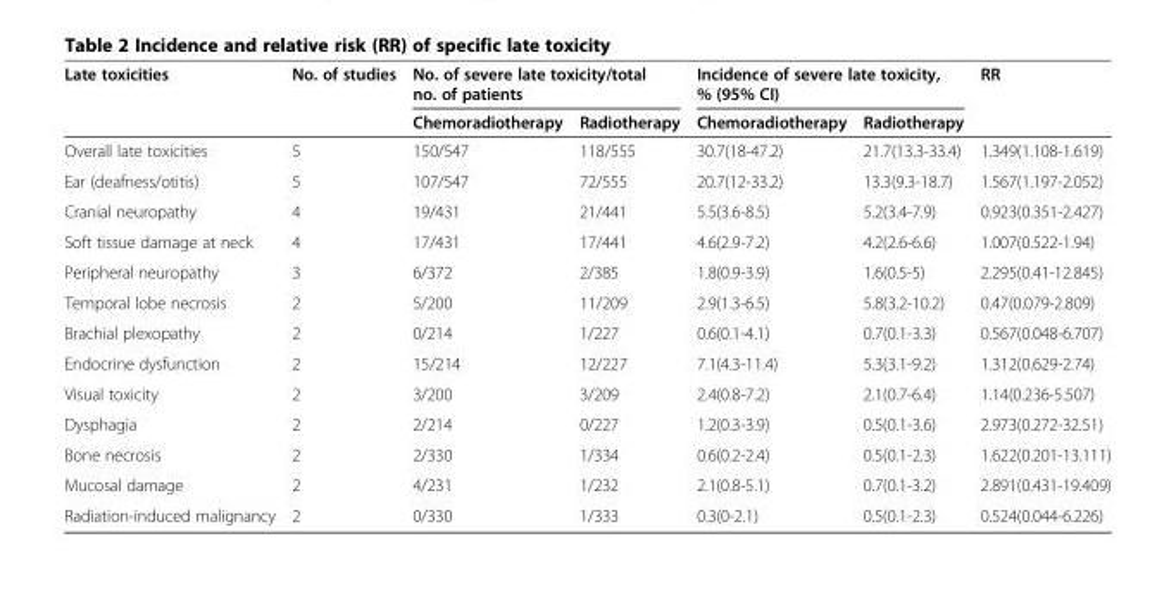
<table><thead><tr><td rowspan="2">Late toxicities</td><td rowspan="2">No. of studies</td><td colspan="2">No. of severe late toxicity/total no. of patients</td><td colspan="2">Incidence of severe late toxicity, % (95% CI)</td><td rowspan="2">RR</td></tr><tr><td>Chemoradiotherapy</td><td>Radiotherapy</td><td>Chemoradiotherapy</td><td>Radiotherapy</td></tr></thead><tbody><tr><td>Overall late toxicities</td><td>5</td><td>150/547</td><td>118/555</td><td>30.7(18-47.2)</td><td>21.7(13.3-33.4)</td><td>1.349(1.108-1.619)</td></tr><tr><td>Ear (deafness/otitis)</td><td>5</td><td>107/547</td><td>72/555</td><td>20.7(12-33.2)</td><td>13.3(9.3-18.7)</td><td>1.567(1.197-2.052)</td></tr><tr><td>Cranial neuropathy</td><td>4</td><td>19/431</td><td>21/441</td><td>5.5(3.6-8.5)</td><td>5.2(3.4-7.9)</td><td>0.923(0.351-2.427)</td></tr><tr><td>Soft tissue damage at neck</td><td>4</td><td>17/431</td><td>17/441</td><td>4.6(2.9-7.2)</td><td>4.2(2.6-6.6)</td><td>1.007(0.522-1.94)</td></tr><tr><td>Peripheral neuropathy</td><td>3</td><td>6/372</td><td>2/385</td><td>1.8(0.9-3.9)</td><td>1.6(0.5-5)</td><td>2.295(0.41-12.845)</td></tr><tr><td>Temporal lobe necrosis</td><td>2</td><td>5/200</td><td>11/209</td><td>2.9(1.3-6.5)</td><td>5.8(3.2-10.2)</td><td>0.47(0.079-2.809)</td></tr><tr><td>Brachial plexopathy</td><td>2</td><td>0/214</td><td>1/227</td><td>0.6(0.1-4.1)</td><td>0.7(0.1-3.3)</td><td>0.567(0.048-6.707)</td></tr><tr><td>Endocrine dysfunction</td><td>2</td><td>15/214</td><td>12/227</td><td>7.1(4.3-11.4)</td><td>5.3(3.1-9.2)</td><td>1.312(0.629-2.74)</td></tr><tr><td>Visual toxicity</td><td>2</td><td>3/200</td><td>3/209</td><td>2.4(0.8-7.2)</td><td>2.1(0.7-6.4)</td><td>1.14(0.236-5.507)</td></tr><tr><td>Dysphagia</td><td>2</td><td>2/214</td><td>0/227</td><td>1.2(0.3-3.9)</td><td>0.5(0.1-3.6)</td><td>2.973(0.272-32.51)</td></tr><tr><td>Bone necrosis</td><td>2</td><td>2/330</td><td>1/334</td><td>0.6(0.2-2.4)</td><td>0.5(0.1-2.3)</td><td>1.622(0.201-13.111)</td></tr><tr><td>Mucosal damage</td><td>2</td><td>4/231</td><td>1/232</td><td>2.1(0.8-5.1)</td><td>0.7(0.1-3.2)</td><td>2.891(0.431-19.409)</td></tr><tr><td>Radiation-induced malignancy</td><td>2</td><td>0/330</td><td>1/333</td><td>0.3(0-2.1)</td><td>0.5(0.1-2.3)</td><td>0.524(0.044-6.226)</td></tr></tbody></table>